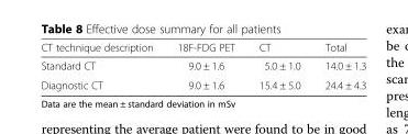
<table><thead><tr><td>CT technique description</td><td>18F-FDG PET</td><td>CT</td><td>Total</td></tr></thead><tbody><tr><td>Standard CT</td><td>9.0 ± 1.6</td><td>5.0 ± 1.0</td><td>14.0 ± 1.3</td></tr><tr><td>Diagnostic CT</td><td>9.0 ± 1.6</td><td>15.4 ± 5.0</td><td>24.4 ± 4.3</td></tr></tbody></table>